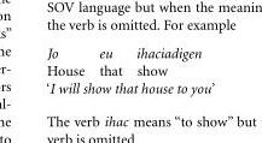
<table><tbody><tr><td>Jo</td><td>eu</td><td>ihaciadigen</td></tr><tr><td>House</td><td>that</td><td>show</td></tr><tr><td colspan="3">‘I will show that house to you’</td></tr></tbody></table>